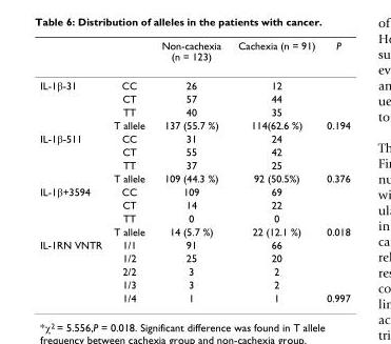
<table><thead><tr><td></td><td></td><td>Non-cachexia (n = 123)</td><td>Cachexia (n = 91)</td><td>P</td></tr></thead><tbody><tr><td rowspan="4">IL-1β-31</td><td>CC</td><td>26</td><td>12</td><td></td></tr><tr><td>CT</td><td>57</td><td>44</td><td></td></tr><tr><td>TT</td><td>40</td><td>35</td><td></td></tr><tr><td>T allele</td><td>137 (55.7 %)</td><td>114(62.6 %)</td><td>0.194</td></tr><tr><td rowspan="4">IL-1β-511</td><td>CC</td><td>31</td><td>24</td><td></td></tr><tr><td>CT</td><td>55</td><td>42</td><td></td></tr><tr><td>TT</td><td>37</td><td>25</td><td></td></tr><tr><td>T allele</td><td>109 (44.3 %)</td><td>92 (50.5%)</td><td>0.376</td></tr><tr><td rowspan="4">IL-1β+3594</td><td>CC</td><td>109</td><td>69</td><td></td></tr><tr><td>CT</td><td>14</td><td>22</td><td></td></tr><tr><td>TT</td><td>0</td><td>0</td><td></td></tr><tr><td>T allele</td><td>14 (5.7 %)</td><td>22 (12.1 %)</td><td>0.018</td></tr><tr><td rowspan="5">IL-1RN VNTR</td><td>1/1</td><td>91</td><td>66</td><td></td></tr><tr><td>1/2</td><td>25</td><td>20</td><td></td></tr><tr><td>2/2</td><td>3</td><td>2</td><td></td></tr><tr><td>1/3</td><td>3</td><td>2</td><td></td></tr><tr><td>1/4</td><td>1</td><td>1</td><td>0.997</td></tr></tbody></table>